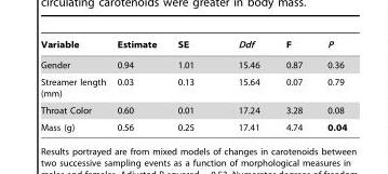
<table><thead><tr><td>Variable</td><td>Estimate</td><td>SE</td><td>Ddf</td><td>F</td><td>P</td></tr></thead><tbody><tr><td>Gender</td><td>0.94</td><td>1.01</td><td>15.46</td><td>0.87</td><td>0.36</td></tr><tr><td>Streamer length (mm)</td><td>0.03</td><td>0.13</td><td>15.64</td><td>0.07</td><td>0.79</td></tr><tr><td>Throat Color</td><td>0.60</td><td>0.01</td><td>17.24</td><td>3.28</td><td>0.08</td></tr><tr><td>Mass (g)</td><td>0.56</td><td>0.25</td><td>17.41</td><td>4.74</td><td>0.04</td></tr></tbody></table>